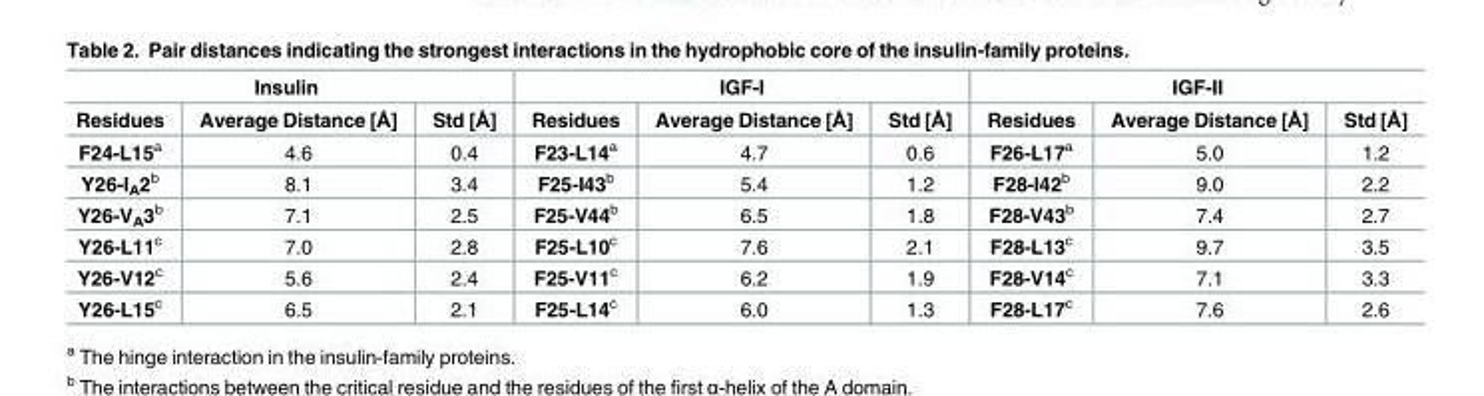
<table><thead><tr><td colspan="3">Insulin</td><td colspan="3">IGF-I</td><td colspan="3">IGF-II</td></tr><tr><td>Residues</td><td>Average Distance [Å]</td><td>Std [Å]</td><td>Residues</td><td>Average Distance [Å]</td><td>Std [Å]</td><td>Residues</td><td>Average Distance [Å]</td><td>Std [Å]</td></tr></thead><tbody><tr><td>F24-L15<sup>a</sup></td><td>4.6</td><td>0.4</td><td>F23-L14<sup>a</sup></td><td>4.7</td><td>0.6</td><td>F26-L17<sup>a</sup></td><td>5.0</td><td>1.2</td></tr><tr><td>Y26-I<sub>A</sub>2<sup>b</sup></td><td>8.1</td><td>3.4</td><td>F25-I43<sup>b</sup></td><td>5.4</td><td>1.2</td><td>F28-I42<sup>b</sup></td><td>9.0</td><td>2.2</td></tr><tr><td>Y26-V<sub>A</sub>3<sup>b</sup></td><td>7.1</td><td>2.5</td><td>F25-V44<sup>b</sup></td><td>6.5</td><td>1.8</td><td>F28-V43<sup>b</sup></td><td>7.4</td><td>2.7</td></tr><tr><td>Y26-L11<sup>c</sup></td><td>7.0</td><td>2.8</td><td>F25-L10<sup>c</sup></td><td>7.6</td><td>2.1</td><td>F28-L13<sup>c</sup></td><td>9.7</td><td>3.5</td></tr><tr><td>Y26-V12<sup>c</sup></td><td>5.6</td><td>2.4</td><td>F25-V11<sup>c</sup></td><td>6.2</td><td>1.9</td><td>F28-V14<sup>c</sup></td><td>7.1</td><td>3.3</td></tr><tr><td>Y26-L15<sup>c</sup></td><td>6.5</td><td>2.1</td><td>F25-L14<sup>c</sup></td><td>6.0</td><td>1.3</td><td>F28-L17<sup>c</sup></td><td>7.6</td><td>2.6</td></tr></tbody></table>